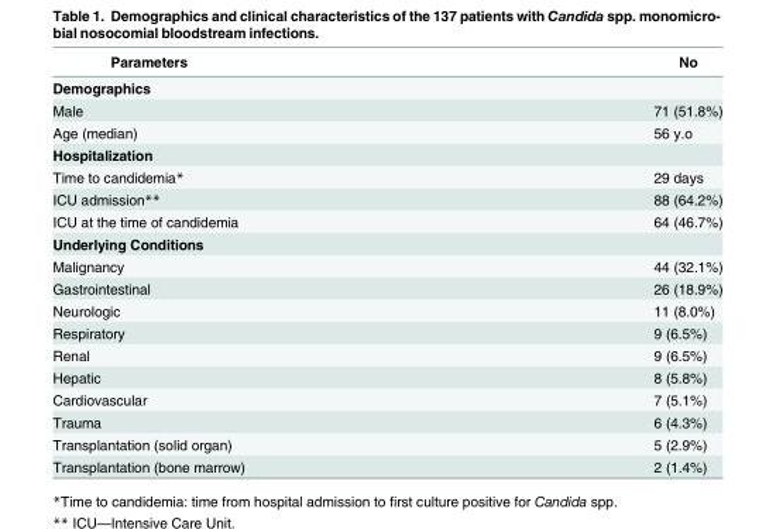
<table><thead><tr><td>Parameters</td><td>No</td></tr></thead><tbody><tr><td colspan="2">Demographics</td></tr><tr><td>Male</td><td>71 (51.8%)</td></tr><tr><td>Age (median)</td><td>56 y.o</td></tr><tr><td colspan="2">Hospitalization</td></tr><tr><td>Time to candidemia*</td><td>29 days</td></tr><tr><td>ICU admission**</td><td>88 (64.2%)</td></tr><tr><td>ICU at the time of candidemia</td><td>64 (46.7%)</td></tr><tr><td colspan="2">Underlying Conditions</td></tr><tr><td>Malignancy</td><td>44 (32.1%)</td></tr><tr><td>Gastrointestinal</td><td>26 (18.9%)</td></tr><tr><td>Neurologic</td><td>11 (8.0%)</td></tr><tr><td>Respiratory</td><td>9 (6.5%)</td></tr><tr><td>Renal</td><td>9 (6.5%)</td></tr><tr><td>Hepatic</td><td>8 (5.8%)</td></tr><tr><td>Cardiovascular</td><td>7 (5.1%)</td></tr><tr><td>Trauma</td><td>6 (4.3%)</td></tr><tr><td>Transplantation (solid organ)</td><td>5 (2.9%)</td></tr><tr><td>Transplantation (bone marrow)</td><td>2 (1.4%)</td></tr></tbody></table>